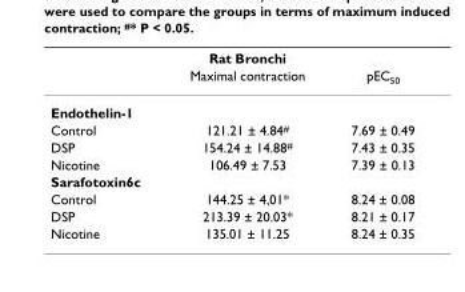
<table><thead><tr><td colspan="3">Rat Bronchi</td></tr><tr><td></td><td>Maximal contraction</td><td>pEC50</td></tr></thead><tbody><tr><td colspan="3">Endothelin-1</td></tr><tr><td>Control</td><td>121.21 ± 4.84#</td><td>7.69 ± 0.49</td></tr><tr><td>DSP</td><td>154.24 ± 14.88#</td><td>7.43 ± 0.35</td></tr><tr><td>Nicotine</td><td>106.49 ± 7.53</td><td>7.39 ± 0.13</td></tr><tr><td colspan="3">Sarafotoxin6c</td></tr><tr><td>Control</td><td>144.25 ± 4,01*</td><td>8.24 ± 0.08</td></tr><tr><td>DSP</td><td>213.39 ± 20.03*</td><td>8.21 ± 0.17</td></tr><tr><td>Nicotine</td><td>135.01 ± 11.25</td><td>8.24 ± 0.35</td></tr></tbody></table>